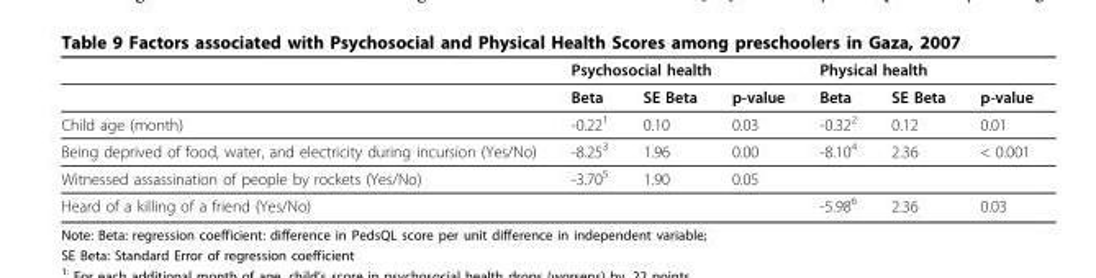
<table><thead><tr><td rowspan="2"></td><td colspan="3">Psychosocial health</td><td colspan="3">Physical health</td></tr><tr><td>Beta</td><td>SE Beta</td><td>p-value</td><td>Beta</td><td>SE Beta</td><td>p-value</td></tr></thead><tbody><tr><td>Child age (month)</td><td>-0.22<sup>1</sup></td><td>0.10</td><td>0.03</td><td>-0.32<sup>2</sup></td><td>0.12</td><td>0.01</td></tr><tr><td>Being deprived of food, water, and electricity during incursion (Yes/No)</td><td>-8.25<sup>3</sup></td><td>1.96</td><td>0.00</td><td>-8.10<sup>4</sup></td><td>2.36</td><td>&lt; 0.001</td></tr><tr><td>Witnessed assassination of people by rockets (Yes/No)</td><td>-3.70<sup>5</sup></td><td>1.90</td><td>0.05</td><td></td><td></td><td></td></tr><tr><td>Heard of a killing of a friend (Yes/No)</td><td></td><td></td><td></td><td>-5.98<sup>6</sup></td><td>2.36</td><td>0.03</td></tr></tbody></table>